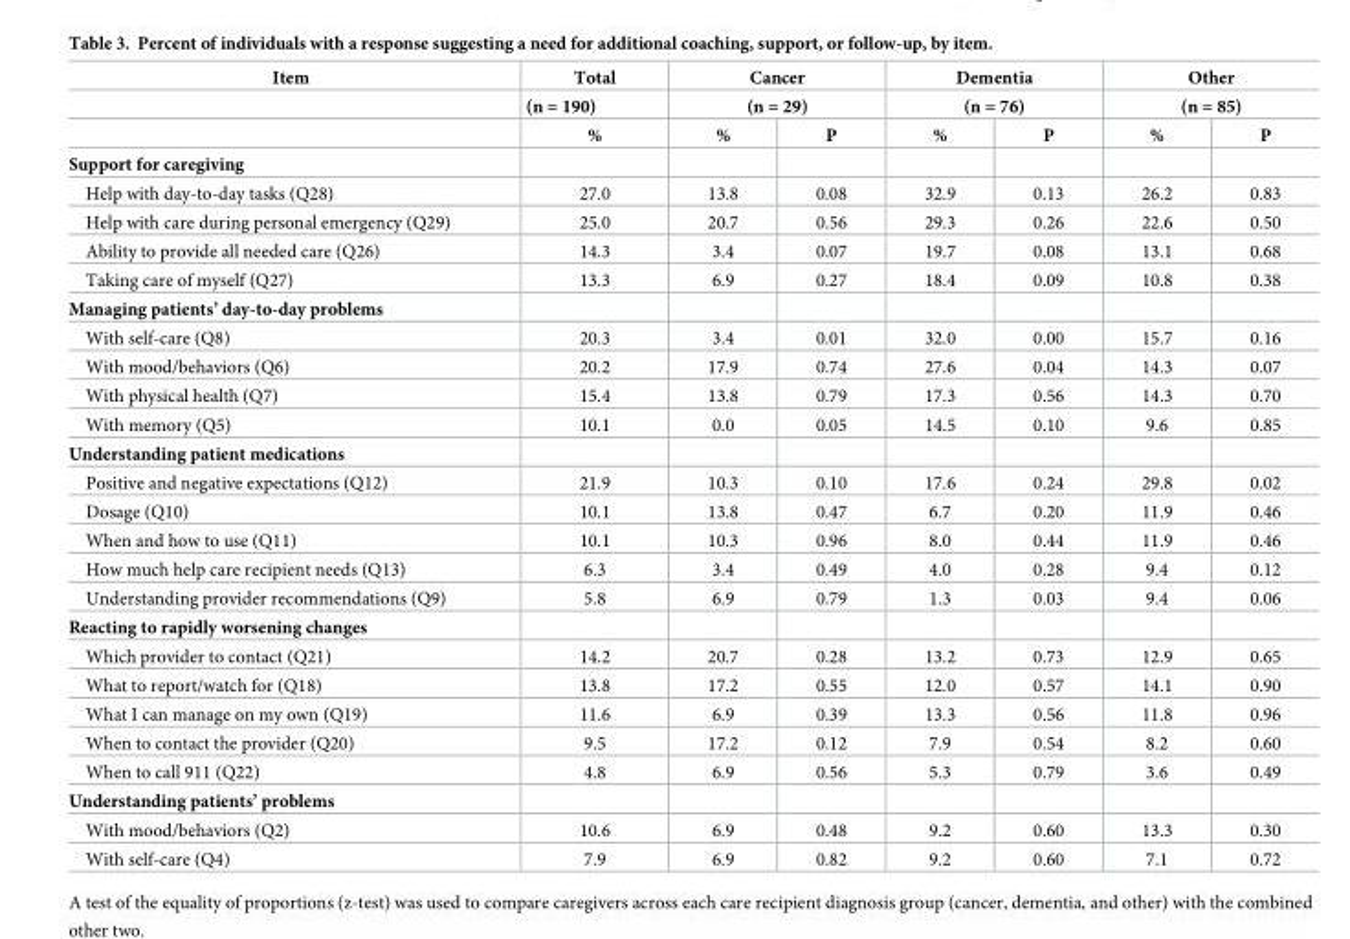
<table><thead><tr><td rowspan="3">Item</td><td rowspan="3">Total (n = 190) %</td><td rowspan="2" colspan="2">Cancer (n = 29)</td><td rowspan="2" colspan="2">Dementia (n = 76)</td><td rowspan="2" colspan="2">Other (n = 85)</td></tr><tr></tr><tr><td>%</td><td>P</td><td>%</td><td>P</td><td>%</td><td>P</td></tr></thead><tbody><tr><td colspan="8">Support for caregiving</td></tr><tr><td>Help with day-to-day tasks (Q28)</td><td>27.0</td><td>13.8</td><td>0.08</td><td>32.9</td><td>0.13</td><td>26.2</td><td>0.83</td></tr><tr><td>Help with care during personal emergency (Q29)</td><td>25.0</td><td>20.7</td><td>0.56</td><td>29.3</td><td>0.26</td><td>22.6</td><td>0.50</td></tr><tr><td>Ability to provide all needed care (Q26)</td><td>14.3</td><td>3.4</td><td>0.07</td><td>19.7</td><td>0.08</td><td>13.1</td><td>0.68</td></tr><tr><td>Taking care of myself (Q27)</td><td>13.3</td><td>6.9</td><td>0.27</td><td>18.4</td><td>0.09</td><td>10.8</td><td>0.38</td></tr><tr><td colspan="8">Managing patients’ day-to-day problems</td></tr><tr><td>With self-care (Q8)</td><td>20.3</td><td>3.4</td><td>0.01</td><td>32.0</td><td>0.00</td><td>15.7</td><td>0.16</td></tr><tr><td>With mood/behaviors (Q6)</td><td>20.2</td><td>17.9</td><td>0.74</td><td>27.6</td><td>0.04</td><td>14.3</td><td>0.07</td></tr><tr><td>With physical health (Q7)</td><td>15.4</td><td>13.8</td><td>0.79</td><td>17.3</td><td>0.56</td><td>14.3</td><td>0.70</td></tr><tr><td>With memory (Q5)</td><td>10.1</td><td>0.0</td><td>0.05</td><td>14.5</td><td>0.10</td><td>9.6</td><td>0.85</td></tr><tr><td colspan="8">Understanding patient medications</td></tr><tr><td>Positive and negative expectations (Q12)</td><td>21.9</td><td>10.3</td><td>0.10</td><td>17.6</td><td>0.24</td><td>29.8</td><td>0.02</td></tr><tr><td>Dosage (Q10)</td><td>10.1</td><td>13.8</td><td>0.47</td><td>6.7</td><td>0.20</td><td>11.9</td><td>0.46</td></tr><tr><td>When and how to use (Q11)</td><td>10.1</td><td>10.3</td><td>0.96</td><td>8.0</td><td>0.44</td><td>11.9</td><td>0.46</td></tr><tr><td>How much help care recipient needs (Q13)</td><td>6.3</td><td>3.4</td><td>0.49</td><td>4.0</td><td>0.28</td><td>9.4</td><td>0.12</td></tr><tr><td>Understanding provider recommendations (Q9)</td><td>5.8</td><td>6.9</td><td>0.79</td><td>1.3</td><td>0.03</td><td>9.4</td><td>0.06</td></tr><tr><td colspan="8">Reacting to rapidly worsening changes</td></tr><tr><td>Which provider to contact (Q21)</td><td>14.2</td><td>20.7</td><td>0.28</td><td>13.2</td><td>0.73</td><td>12.9</td><td>0.65</td></tr><tr><td>What to report/watch for (Q18)</td><td>13.8</td><td>17.2</td><td>0.55</td><td>12.0</td><td>0.57</td><td>14.1</td><td>0.90</td></tr><tr><td>What I can manage on my own (Q19)</td><td>11.6</td><td>6.9</td><td>0.39</td><td>13.3</td><td>0.56</td><td>11.8</td><td>0.96</td></tr><tr><td>When to contact the provider (Q20)</td><td>9.5</td><td>17.2</td><td>0.12</td><td>7.9</td><td>0.54</td><td>8.2</td><td>0.60</td></tr><tr><td>When to call 911 (Q22)</td><td>4.8</td><td>6.9</td><td>0.56</td><td>5.3</td><td>0.79</td><td>3.6</td><td>0.49</td></tr><tr><td colspan="8">Understanding patients’ problems</td></tr><tr><td>With mood/behaviors (Q2)</td><td>10.6</td><td>6.9</td><td>0.48</td><td>9.2</td><td>0.60</td><td>13.3</td><td>0.30</td></tr><tr><td>With self-care (Q4)</td><td>7.9</td><td>6.9</td><td>0.82</td><td>9.2</td><td>0.60</td><td>7.1</td><td>0.72</td></tr></tbody></table>